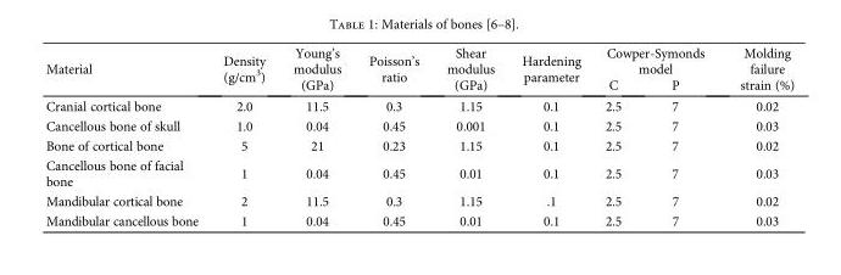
<table><thead><tr><td rowspan="2">Material</td><td rowspan="2">Density (g/cm<sup>3</sup>)</td><td rowspan="2">Young’s modulus (GPa)</td><td rowspan="2">Poisson’s ratio</td><td rowspan="2">Shear modulus (GPa)</td><td rowspan="2">Hardening parameter</td><td colspan="2">Cowper-Symonds model</td><td rowspan="2">Molding failure strain (%)</td></tr><tr><td>C</td><td>P</td></tr></thead><tbody><tr><td>Cranial cortical bone</td><td>2.0</td><td>11.5</td><td>0.3</td><td>1.15</td><td>0.1</td><td>2.5</td><td>7</td><td>0.02</td></tr><tr><td>Cancellous bone of skull</td><td>1.0</td><td>0.04</td><td>0.45</td><td>0.001</td><td>0.1</td><td>2.5</td><td>7</td><td>0.03</td></tr><tr><td>Bone of cortical bone</td><td>5</td><td>21</td><td>0.23</td><td>1.15</td><td>0.1</td><td>2.5</td><td>7</td><td>0.02</td></tr><tr><td>Cancellous bone of facial bone</td><td>1</td><td>0.04</td><td>0.45</td><td>0.01</td><td>0.1</td><td>2.5</td><td>7</td><td>0.03</td></tr><tr><td>Mandibular cortical bone</td><td>2</td><td>11.5</td><td>0.3</td><td>1.15</td><td>.1</td><td>2.5</td><td>7</td><td>0.02</td></tr><tr><td>Mandibular cancellous bone</td><td>1</td><td>0.04</td><td>0.45</td><td>0.01</td><td>0.1</td><td>2.5</td><td>7</td><td>0.03</td></tr></tbody></table>